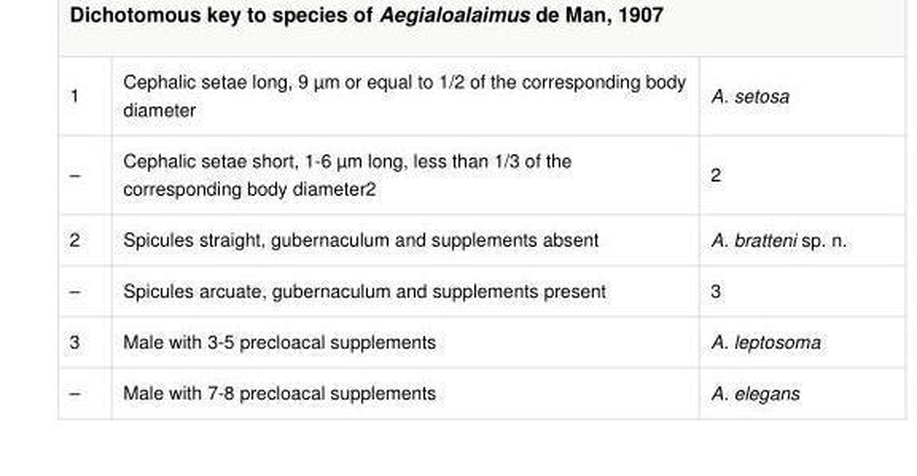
<table><tbody><tr><td>1</td><td>Cephalic setae long, 9 µm or equal to 1/2 of the corresponding body diameter</td><td>A. setosa</td></tr><tr><td>–</td><td>Cephalic setae short, 1-6 µm long, less than 1/3 of the corresponding body diameter2</td><td>2</td></tr><tr><td>2</td><td>Spicules straight, gubernaculum and supplements absent</td><td>A. bratteni sp. n.</td></tr><tr><td>–</td><td>Spicules arcuate, gubernaculum and supplements present</td><td>3</td></tr><tr><td>3</td><td>Male with 3-5 precloacal supplements</td><td>A. leptosoma</td></tr><tr><td>–</td><td>Male with 7-8 precloacal supplements</td><td>A. elegans</td></tr></tbody></table>